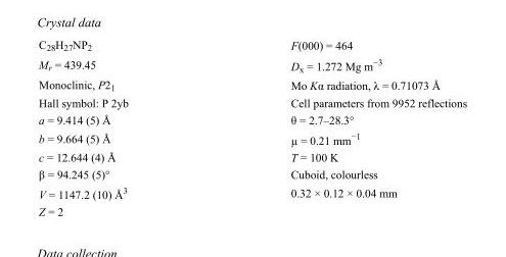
<table><tbody><tr><td>C<sub>28</sub>H<sub>27</sub>NP<sub>2</sub></td><td>F(000) = 464</td></tr><tr><td>M<sub>r</sub> = 439.45</td><td>D<sub>x</sub> = 1.272 Mg m<sup>−3</sup></td></tr><tr><td>Monoclinic, P2<sub>1</sub></td><td>Mo Kα radiation, λ = 0.71073 Å</td></tr><tr><td>Hall symbol: P 2yb</td><td>Cell parameters from 9952 reflections</td></tr><tr><td>a = 9.414 (5) Å</td><td>θ = 2.7–28.3°</td></tr><tr><td>b = 9.664 (5) Å</td><td>µ = 0.21 mm<sup>−1</sup></td></tr><tr><td>c = 12.644 (4) Å</td><td>T = 100 K</td></tr><tr><td>β = 94.245 (5)°</td><td>Cuboid, colourless</td></tr><tr><td>V = 1147.2 (10) Å<sup>3</sup></td><td>0.32 × 0.12 × 0.04 mm</td></tr><tr><td>Z = 2</td><td></td></tr></tbody></table>